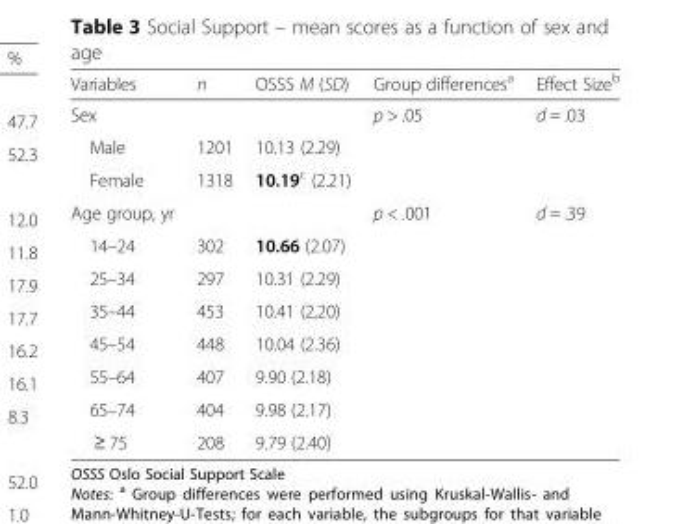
<table><thead><tr><td>Variables</td><td>n</td><td>OSSS M (SD)</td><td>Group differences<sup>a</sup></td><td>Effect Size<sup>b</sup></td></tr></thead><tbody><tr><td>Sex</td><td></td><td></td><td>p &gt; .05</td><td>d = .03</td></tr><tr><td>Male</td><td>1201</td><td>10.13 (2.29)</td><td></td><td></td></tr><tr><td>Female</td><td>1318</td><td>10.19<sup>c</sup> (2.21)</td><td></td><td></td></tr><tr><td>Age group, yr</td><td></td><td></td><td>p &lt; .001</td><td>d = .39</td></tr><tr><td>14–24</td><td>302</td><td>10.66 (2.07)</td><td></td><td></td></tr><tr><td>25–34</td><td>297</td><td>10.31 (2.29)</td><td></td><td></td></tr><tr><td>35–44</td><td>453</td><td>10.41 (2,20)</td><td></td><td></td></tr><tr><td>45–54</td><td>448</td><td>10.04 (2.36)</td><td></td><td></td></tr><tr><td>55–64</td><td>407</td><td>9.90 (2.18)</td><td></td><td></td></tr><tr><td>65–74</td><td>404</td><td>9.98 (2.17)</td><td></td><td></td></tr><tr><td>≥ 75</td><td>208</td><td>9.79 (2.40)</td><td></td><td></td></tr></tbody></table>